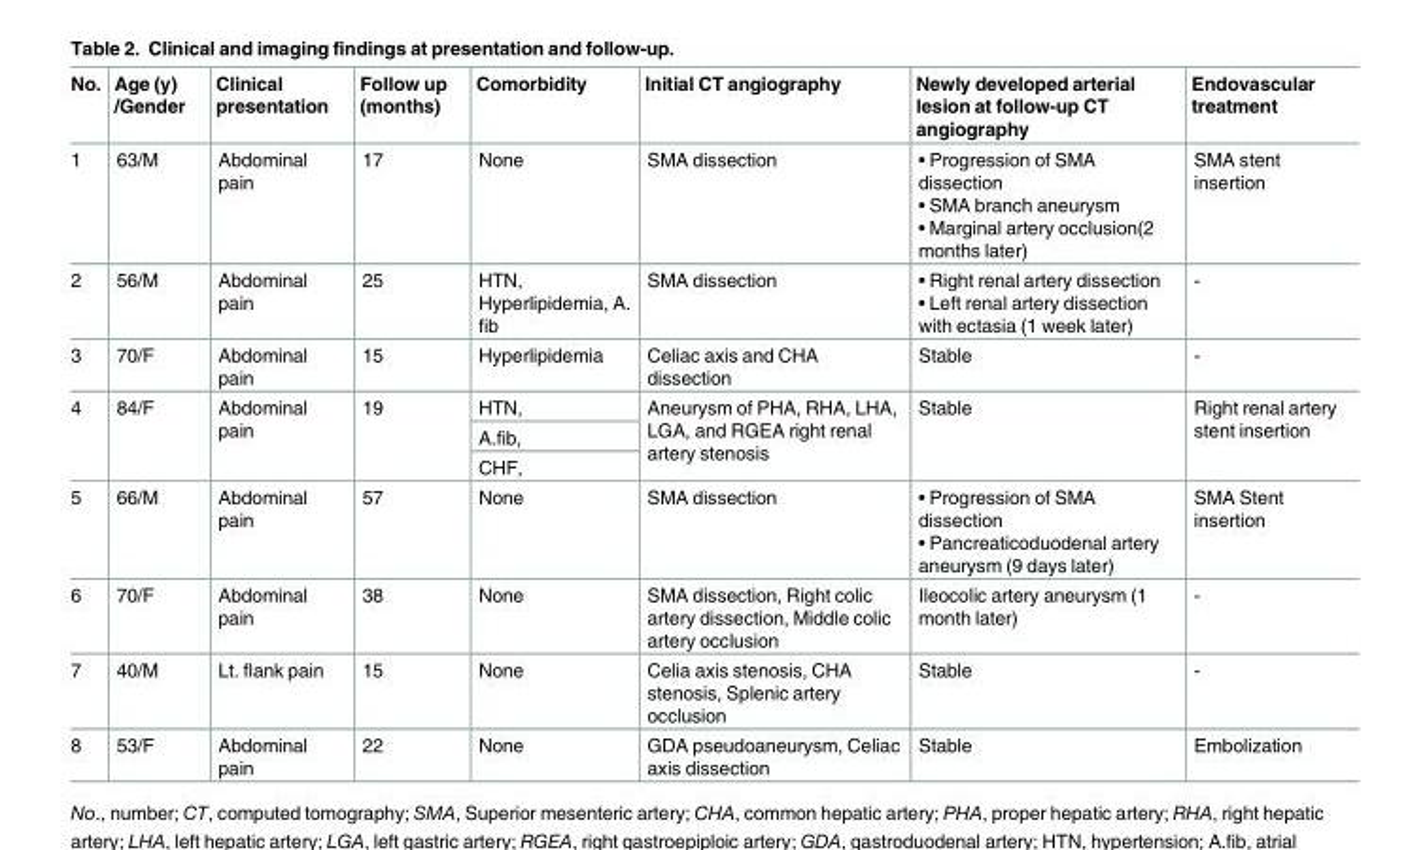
<table><thead><tr><td>No.</td><td>Age (y) /Gender</td><td>Clinical presentation</td><td>Follow up (months)</td><td>Comorbidity</td><td>Initial CT angiography</td><td>Newly developed arterial lesion at follow-up CT angiography</td><td>Endovascular treatment</td></tr></thead><tbody><tr><td>1</td><td>63/M</td><td>Abdominal pain</td><td>17</td><td>None</td><td>SMA dissection</td><td>• Progression of SMA dissection • SMA branch aneurysm • Marginal artery occlusion(2 months later)</td><td>SMA stent insertion</td></tr><tr><td>2</td><td>56/M</td><td>Abdominal pain</td><td>25</td><td>HTN, Hyperlipidemia, A. fib</td><td>SMA dissection</td><td>• Right renal artery dissection • Left renal artery dissection with ectasia (1 week later)</td><td>-</td></tr><tr><td>3</td><td>70/F</td><td>Abdominal pain</td><td>15</td><td>Hyperlipidemia</td><td>Celiac axis and CHA dissection</td><td>Stable</td><td>-</td></tr><tr><td rowspan="3">4</td><td rowspan="3">84/F</td><td rowspan="3">Abdominal pain</td><td rowspan="3">19</td><td>HTN,</td><td rowspan="3">Aneurysm of PHA, RHA, LHA, LGA, and RGEA right renal artery stenosis</td><td rowspan="3">Stable</td><td rowspan="3">Right renal artery stent insertion</td></tr><tr><td>A.fib,</td></tr><tr><td>CHF,</td></tr><tr><td>5</td><td>66/M</td><td>Abdominal pain</td><td>57</td><td>None</td><td>SMA dissection</td><td>• Progression of SMA dissection • Pancreaticoduodenal artery aneurysm (9 days later)</td><td>SMA Stent insertion</td></tr><tr><td>6</td><td>70/F</td><td>Abdominal pain</td><td>38</td><td>None</td><td>SMA dissection, Right colic artery dissection, Middle colic artery occlusion</td><td>Ileocolic artery aneurysm (1 month later)</td><td>-</td></tr><tr><td>7</td><td>40/M</td><td>Lt. flank pain</td><td>15</td><td>None</td><td>Celia axis stenosis, CHA stenosis, Splenic artery occlusion</td><td>Stable</td><td>-</td></tr><tr><td>8</td><td>53/F</td><td>Abdominal pain</td><td>22</td><td>None</td><td>GDA pseudoaneurysm, Celiac axis dissection</td><td>Stable</td><td>Embolization</td></tr></tbody></table>